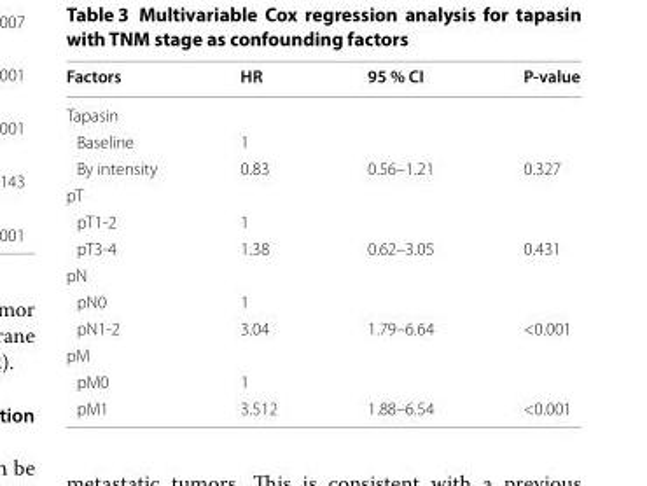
<table><thead><tr><td>Factors</td><td>HR</td><td>95 % CI</td><td>P-value</td></tr></thead><tbody><tr><td colspan="4">Tapasin</td></tr><tr><td>Baseline</td><td>1</td><td></td><td></td></tr><tr><td>By intensity</td><td>0.83</td><td>0.56–1.21</td><td>0.327</td></tr><tr><td colspan="4">pT</td></tr><tr><td>pT1-2</td><td>1</td><td></td><td></td></tr><tr><td>pT3-4</td><td>1.38</td><td>0.62–3.05</td><td>0.431</td></tr><tr><td colspan="4">pN</td></tr><tr><td>pN0</td><td>1</td><td></td><td></td></tr><tr><td>pN1-2</td><td>3.04</td><td>1.79–6.64</td><td>&lt;0.001</td></tr><tr><td colspan="4">pM</td></tr><tr><td>pM0</td><td>1</td><td></td><td></td></tr><tr><td>pM1</td><td>3.512</td><td>1.88–6.54</td><td>&lt;0.001</td></tr></tbody></table>